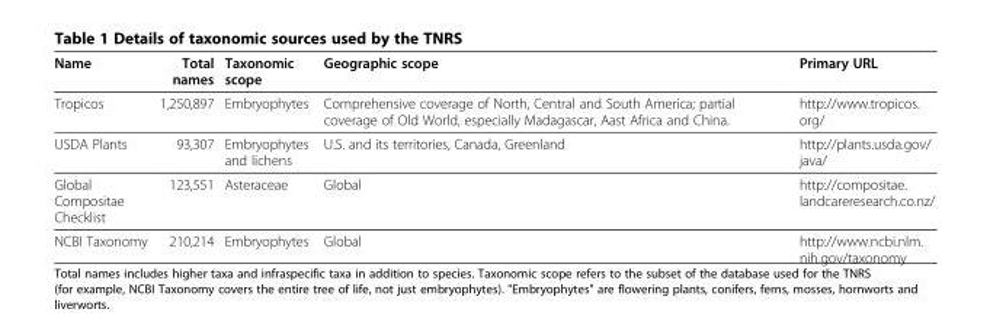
<table><thead><tr><td>Name</td><td>Total names</td><td>Taxonomic scope</td><td>Geographic scope</td><td>Primary URL</td></tr></thead><tbody><tr><td>Tropicos</td><td>1,250,897</td><td>Embryophytes</td><td>Comprehensive coverage of North, Central and South America; partial coverage of Old World, especially Madagascar, Aast Africa and China.</td><td>http://www.tropicos. org/</td></tr><tr><td>USDA Plants</td><td>93,307</td><td>Embryophytes and lichens</td><td>U.S. and its territories, Canada, Greenland</td><td>http://plants.usda.gov/ java/</td></tr><tr><td>Global Compositae Checklist</td><td>123,551</td><td>Asteraceae</td><td>Global</td><td>http://compositae. landcareresearch.co.nz/</td></tr><tr><td>NCBI Taxonomy</td><td>210,214</td><td>Embryophytes</td><td>Global</td><td>http://www.ncbi.nlm. nih.gov/taxonomy</td></tr></tbody></table>